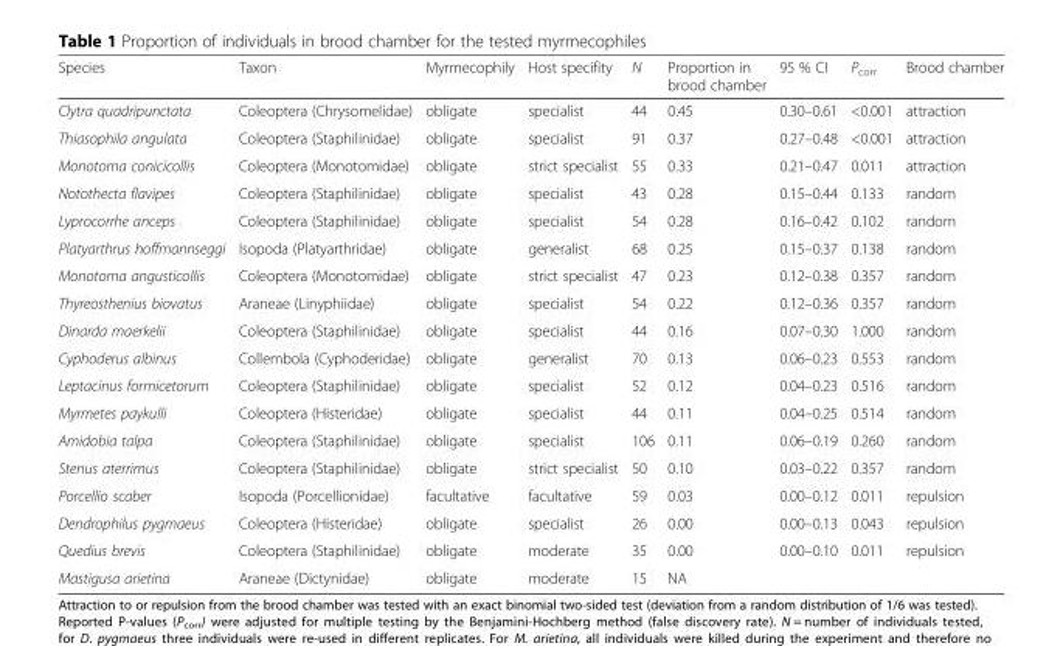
<table><thead><tr><td>Species</td><td>Taxon</td><td>Myrmecophily</td><td>Host specifity</td><td>N</td><td>Proportion in brood chamber</td><td>95 % CI</td><td>P<sub>corr</sub></td><td>Brood chamber</td></tr></thead><tbody><tr><td>Clytra quadripunctata</td><td>Coleoptera (Chrysomelidae)</td><td>obligate</td><td>specialist</td><td>44</td><td>0.45</td><td>0.30–0.61</td><td>&lt;0.001</td><td>attraction</td></tr><tr><td>Thiasophila angulata</td><td>Coleoptera (Staphilinidae)</td><td>obligate</td><td>specialist</td><td>91</td><td>0.37</td><td>0.27–0.48</td><td>&lt;0.001</td><td>attraction</td></tr><tr><td>Monotoma conicicollis</td><td>Coleoptera (Monotomidae)</td><td>obligate</td><td>strict specialist</td><td>55</td><td>0.33</td><td>0.21–0.47</td><td>0.011</td><td>attraction</td></tr><tr><td>Notothecta flavipes</td><td>Coleoptera (Staphilinidae)</td><td>obligate</td><td>specialist</td><td>43</td><td>0.28</td><td>0.15–0.44</td><td>0.133</td><td>random</td></tr><tr><td>Lyprocorrhe anceps</td><td>Coleoptera (Staphilinidae)</td><td>obligate</td><td>specialist</td><td>54</td><td>0.28</td><td>0.16–0.42</td><td>0.102</td><td>random</td></tr><tr><td>Platyarthrus hoffmannseggi</td><td>Isopoda (Platyarthridae)</td><td>obligate</td><td>generalist</td><td>68</td><td>0.25</td><td>0.15–0.37</td><td>0.138</td><td>random</td></tr><tr><td>Monotoma angusticollis</td><td>Coleoptera (Monotomidae)</td><td>obligate</td><td>strict specialist</td><td>47</td><td>0.23</td><td>0.12–0.38</td><td>0.357</td><td>random</td></tr><tr><td>Thyreosthenius biovatus</td><td>Araneae (Linyphiidae)</td><td>obligate</td><td>specialist</td><td>54</td><td>0.22</td><td>0.12–0.36</td><td>0.357</td><td>random</td></tr><tr><td>Dinarda maerkelii</td><td>Coleoptera (Staphilinidae)</td><td>obligate</td><td>specialist</td><td>44</td><td>0.16</td><td>0.07–0.30</td><td>1.000</td><td>random</td></tr><tr><td>Cyphoderus albinus</td><td>Collembola (Cyphoderidae)</td><td>obligate</td><td>generalist</td><td>70</td><td>0.13</td><td>0.06–0.23</td><td>0.553</td><td>random</td></tr><tr><td>Leptacinus formicetorum</td><td>Coleoptera (Staphilinidae)</td><td>obligate</td><td>specialist</td><td>52</td><td>0.12</td><td>0.04–0.23</td><td>0.516</td><td>random</td></tr><tr><td>Myrmetes paykulli</td><td>Coleoptera (Histeridae)</td><td>obligate</td><td>specialist</td><td>44</td><td>0.11</td><td>0.04–0.25</td><td>0.514</td><td>random</td></tr><tr><td>Amidobia talpa</td><td>Coleoptera (Staphilinidae)</td><td>obligate</td><td>specialist</td><td>106</td><td>0.11</td><td>0.06–0.19</td><td>0.260</td><td>random</td></tr><tr><td>Stenus aterrimus</td><td>Coleoptera (Staphilinidae)</td><td>obligate</td><td>strict specialist</td><td>50</td><td>0.10</td><td>0.03–0.22</td><td>0.357</td><td>random</td></tr><tr><td>Porcellio scaber</td><td>Isopoda (Porcellionidae)</td><td>facultative</td><td>facultative</td><td>59</td><td>0.03</td><td>0.00–0.12</td><td>0.011</td><td>repulsion</td></tr><tr><td>Dendrophilus pygmaeus</td><td>Coleoptera (Histeridae)</td><td>obligate</td><td>specialist</td><td>26</td><td>0.00</td><td>0.00–0.13</td><td>0.043</td><td>repulsion</td></tr><tr><td>Quedius brevis</td><td>Coleoptera (Staphilinidae)</td><td>obligate</td><td>moderate</td><td>35</td><td>0.00</td><td>0.00–0.10</td><td>0.011</td><td>repulsion</td></tr><tr><td>Mastigusa arietina</td><td>Araneae (Dictynidae)</td><td>obligate</td><td>moderate</td><td>15</td><td>NA</td><td></td><td></td><td></td></tr></tbody></table>